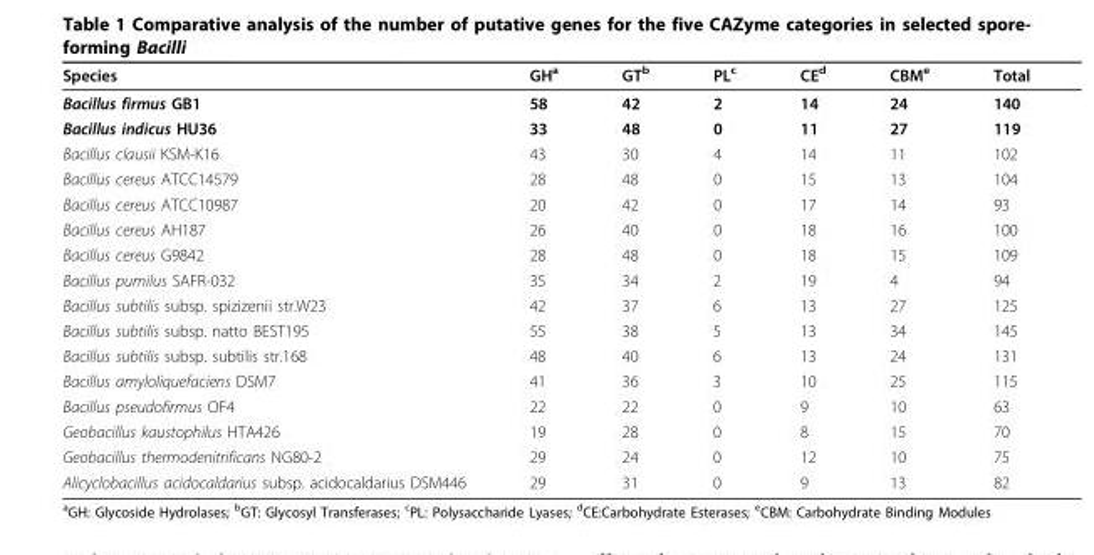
<table><thead><tr><td>Species</td><td>GH<sup>a</sup></td><td>GT<sup>b</sup></td><td>PL<sup>c</sup></td><td>CE<sup>d</sup></td><td>CBM<sup>e</sup></td><td>Total</td></tr></thead><tbody><tr><td>Bacillus firmus GB1</td><td>58</td><td>42</td><td>2</td><td>14</td><td>24</td><td>140</td></tr><tr><td>Bacillus indicus HU36</td><td>33</td><td>48</td><td>0</td><td>11</td><td>27</td><td>119</td></tr><tr><td>Bacillus clausii KSM-K16</td><td>43</td><td>30</td><td>4</td><td>14</td><td>11</td><td>102</td></tr><tr><td>Bacillus cereus ATCC14579</td><td>28</td><td>48</td><td>0</td><td>15</td><td>13</td><td>104</td></tr><tr><td>Bacillus cereus ATCC10987</td><td>20</td><td>42</td><td>0</td><td>17</td><td>14</td><td>93</td></tr><tr><td>Bacillus cereus AH187</td><td>26</td><td>40</td><td>0</td><td>18</td><td>16</td><td>100</td></tr><tr><td>Bacillus cereus G9842</td><td>28</td><td>48</td><td>0</td><td>18</td><td>15</td><td>109</td></tr><tr><td>Bacillus pumilus SAFR-032</td><td>35</td><td>34</td><td>2</td><td>19</td><td>4</td><td>94</td></tr><tr><td>Bacillus subtilis subsp. spizizenii str.W23</td><td>42</td><td>37</td><td>6</td><td>13</td><td>27</td><td>125</td></tr><tr><td>Bacillus subtilis subsp. natto BEST195</td><td>55</td><td>38</td><td>5</td><td>13</td><td>34</td><td>145</td></tr><tr><td>Bacillus subtilis subsp. subtilis str.168</td><td>48</td><td>40</td><td>6</td><td>13</td><td>24</td><td>131</td></tr><tr><td>Bacillus amyloliquefaciens DSM7</td><td>41</td><td>36</td><td>3</td><td>10</td><td>25</td><td>115</td></tr><tr><td>Bacillus pseudofirmus OF4</td><td>22</td><td>22</td><td>0</td><td>9</td><td>10</td><td>63</td></tr><tr><td>Geobacillus kaustophilus HTA426</td><td>19</td><td>28</td><td>0</td><td>8</td><td>15</td><td>70</td></tr><tr><td>Geobacillus thermodenitrificans NG80-2</td><td>29</td><td>24</td><td>0</td><td>12</td><td>10</td><td>75</td></tr><tr><td>Alicyclobacillus acidocaldarius subsp. acidocaldarius DSM446</td><td>29</td><td>31</td><td>0</td><td>9</td><td>13</td><td>82</td></tr></tbody></table>